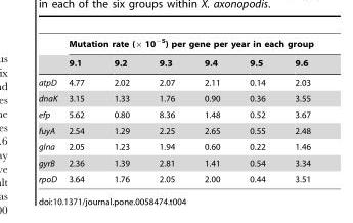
<table><thead><tr><td rowspan="2"></td><td colspan="6">Mutation rate (× 10<sup>−5</sup>) per gene per year in each group</td></tr><tr><td>9.1</td><td>9.2</td><td>9.3</td><td>9.4</td><td>9.5</td><td>9.6</td></tr></thead><tbody><tr><td>atpD</td><td>4.77</td><td>2.02</td><td>2.07</td><td>2.11</td><td>0.14</td><td>2.03</td></tr><tr><td>dnaK</td><td>3.15</td><td>1.33</td><td>1.76</td><td>0.90</td><td>0.36</td><td>3.55</td></tr><tr><td>efp</td><td>5.62</td><td>0.80</td><td>8.36</td><td>1.48</td><td>0.52</td><td>3.67</td></tr><tr><td>fuyA</td><td>2.54</td><td>1.29</td><td>2.25</td><td>2.65</td><td>0.55</td><td>2.48</td></tr><tr><td>glna</td><td>2.05</td><td>1.23</td><td>1.94</td><td>0.60</td><td>0.22</td><td>1.46</td></tr><tr><td>gyrB</td><td>2.36</td><td>1.39</td><td>2.81</td><td>1.41</td><td>0.54</td><td>3.34</td></tr><tr><td>rpoD</td><td>3.64</td><td>1.76</td><td>2.05</td><td>2.00</td><td>0.44</td><td>3.51</td></tr></tbody></table>